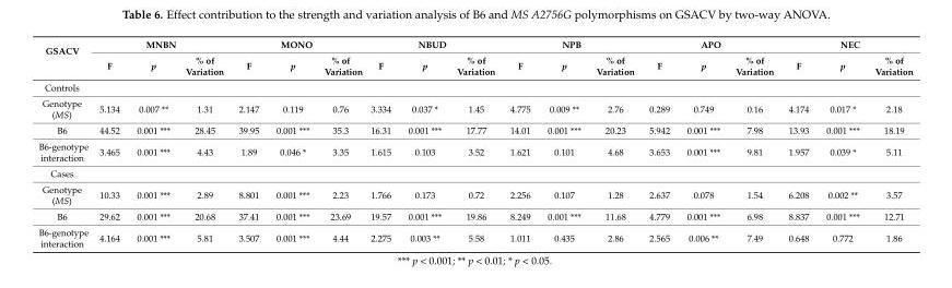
<table><thead><tr><td rowspan="2">GSACV</td><td colspan="3">MNBN</td><td colspan="3">MONO</td><td colspan="3">NBUD</td><td colspan="3">NPB</td><td colspan="3">APO</td><td colspan="3">NEC</td></tr><tr><td>F</td><td>p</td><td>% of Variation</td><td>F</td><td>p</td><td>% of Variation</td><td>F</td><td>p</td><td>% of Variation</td><td>F</td><td>p</td><td>% of Variation</td><td>F</td><td>p</td><td>% of Variation</td><td>F</td><td>p</td><td>% of Variation</td></tr></thead><tbody><tr><td colspan="19">Controls</td></tr><tr><td>Genotype (MS)</td><td>5.134</td><td>0.007 **</td><td>1.31</td><td>2.147</td><td>0.119</td><td>0.76</td><td>3.334</td><td>0.037 *</td><td>1.45</td><td>4.775</td><td>0.009 **</td><td>2.76</td><td>0.289</td><td>0.749</td><td>0.16</td><td>4.174</td><td>0.017 *</td><td>2.18</td></tr><tr><td>B6</td><td>44.52</td><td>0.001 ***</td><td>28.45</td><td>39.95</td><td>0.001 ***</td><td>35.3</td><td>16.31</td><td>0.001 ***</td><td>17.77</td><td>14.01</td><td>0.001 ***</td><td>20.23</td><td>5.942</td><td>0.001 ***</td><td>7.98</td><td>13.93</td><td>0.001 ***</td><td>18.19</td></tr><tr><td>B6-genotype interaction</td><td>3.465</td><td>0.001 ***</td><td>4.43</td><td>1.89</td><td>0.046 *</td><td>3.35</td><td>1.615</td><td>0.103</td><td>3.52</td><td>1.621</td><td>0.101</td><td>4.68</td><td>3.653</td><td>0.001 ***</td><td>9.81</td><td>1.957</td><td>0.039 *</td><td>5.11</td></tr><tr><td colspan="19">Cases</td></tr><tr><td>Genotype (MS)</td><td>10.33</td><td>0.001 ***</td><td>2.89</td><td>8.801</td><td>0.001 ***</td><td>2.23</td><td>1.766</td><td>0.173</td><td>0.72</td><td>2.256</td><td>0.107</td><td>1.28</td><td>2.637</td><td>0.078</td><td>1.54</td><td>6.208</td><td>0.002 **</td><td>3.57</td></tr><tr><td>B6</td><td>29.62</td><td>0.001 ***</td><td>20.68</td><td>37.41</td><td>0.001 ***</td><td>23.69</td><td>19.57</td><td>0.001 ***</td><td>19.86</td><td>8.249</td><td>0.001 ***</td><td>11.68</td><td>4.779</td><td>0.001 ***</td><td>6.98</td><td>8.837</td><td>0.001 ***</td><td>12.71</td></tr><tr><td>B6-genotype interaction</td><td>4.164</td><td>0.001 ***</td><td>5.81</td><td>3.507</td><td>0.001 ***</td><td>4.44</td><td>2.275</td><td>0.003 **</td><td>5.58</td><td>1.011</td><td>0.435</td><td>2.86</td><td>2.565</td><td>0.006 **</td><td>7.49</td><td>0.648</td><td>0.772</td><td>1.86</td></tr></tbody></table>